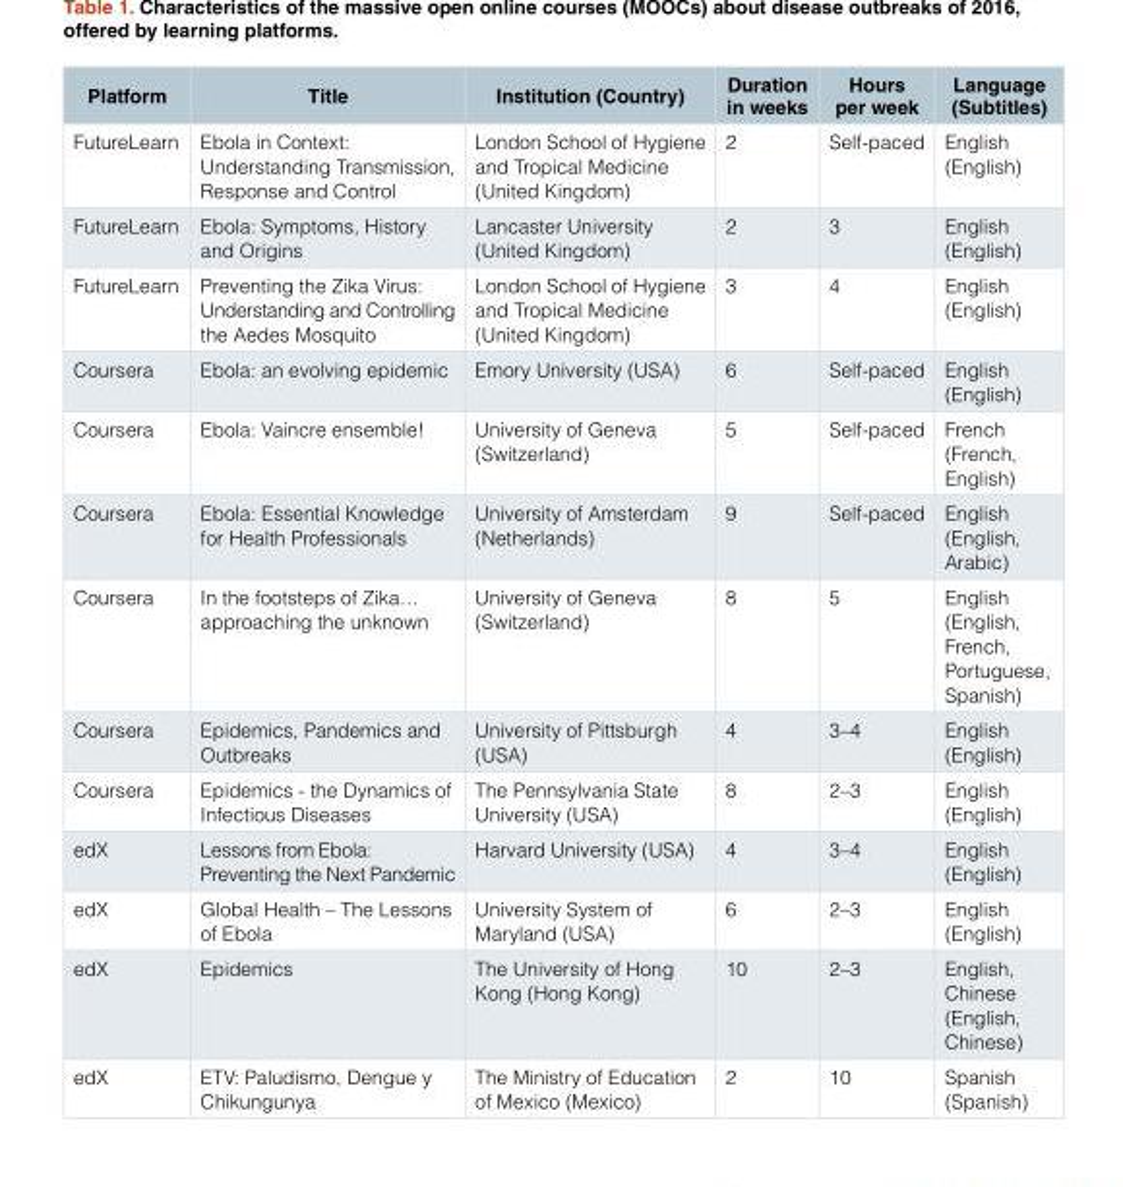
<table><thead><tr><td>Platform</td><td>Title</td><td>Institution (Country)</td><td>Duration in weeks</td><td>Hours per week</td><td>Language (Subtitles)</td></tr></thead><tbody><tr><td>FutureLearn</td><td>Ebola in Context: Understanding Transmission, Response and Control</td><td>London School of Hygiene and Tropical Medicine (United Kingdom)</td><td>2</td><td>Self-paced</td><td>English (English)</td></tr><tr><td>FutureLearn</td><td>Ebola: Symptoms, History and Origins</td><td>Lancaster University (United Kingdom)</td><td>2</td><td>3</td><td>English (English)</td></tr><tr><td>FutureLearn</td><td>Preventing the Zika Virus: Understanding and Controlling the Aedes Mosquito</td><td>London School of Hygiene and Tropical Medicine (United Kingdom)</td><td>3</td><td>4</td><td>English (English)</td></tr><tr><td>Coursera</td><td>Ebola: an evolving epidemic</td><td>Emory University (USA)</td><td>6</td><td>Self-paced</td><td>English (English)</td></tr><tr><td>Coursera</td><td>Ebola: Vaincre ensemble!</td><td>University of Geneva (Switzerland)</td><td>5</td><td>Self-paced</td><td>French (French, English)</td></tr><tr><td>Coursera</td><td>Ebola: Essential Knowledge for Health Professionals</td><td>University of Amsterdam (Netherlands)</td><td>9</td><td>Self-paced</td><td>English (English, Arabic)</td></tr><tr><td>Coursera</td><td>In the footsteps of Zika… approaching the unknown</td><td>University of Geneva (Switzerland)</td><td>8</td><td>5</td><td>English (English, French, Portuguese, Spanish)</td></tr><tr><td>Coursera</td><td>Epidemics, Pandemics and Outbreaks</td><td>University of Pittsburgh (USA)</td><td>4</td><td>3–4</td><td>English (English)</td></tr><tr><td>Coursera</td><td>Epidemics - the Dynamics of Infectious Diseases</td><td>The Pennsylvania State University (USA)</td><td>8</td><td>2–3</td><td>English (English)</td></tr><tr><td>edX</td><td>Lessons from Ebola: Preventing the Next Pandemic</td><td>Harvard University (USA)</td><td>4</td><td>3–4</td><td>English (English)</td></tr><tr><td>edX</td><td>Global Health – The Lessons of Ebola</td><td>University System of Maryland (USA)</td><td>6</td><td>2–3</td><td>English (English)</td></tr><tr><td>edX</td><td>Epidemics</td><td>The University of Hong Kong (Hong Kong)</td><td>10</td><td>2–3</td><td>English, Chinese (English, Chinese)</td></tr><tr><td>edX</td><td>ETV: Paludismo, Dengue y Chikungunya</td><td>The Ministry of Education of Mexico (Mexico)</td><td>2</td><td>10</td><td>Spanish (Spanish)</td></tr></tbody></table>